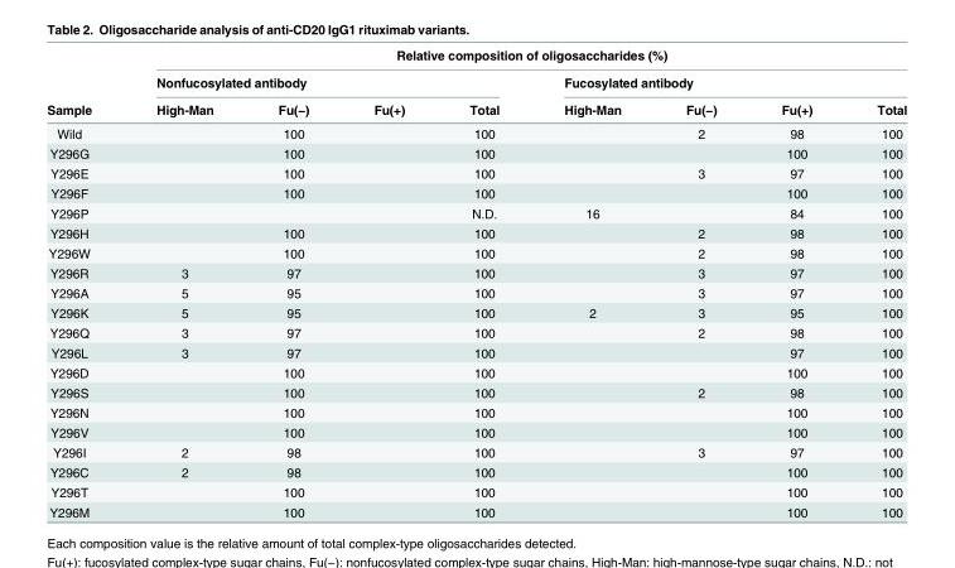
<table><thead><tr><td rowspan="3">Sample</td><td colspan="8">Relative composition of oligosaccharides (%)</td></tr><tr><td colspan="4">Nonfucosylated antibody</td><td colspan="4">Fucosylated antibody</td></tr><tr><td>High-Man</td><td>Fu(−)</td><td>Fu(+)</td><td>Total</td><td>High-Man</td><td>Fu(−)</td><td>Fu(+)</td><td>Total</td></tr></thead><tbody><tr><td>Wild</td><td></td><td>100</td><td></td><td>100</td><td></td><td>2</td><td>98</td><td>100</td></tr><tr><td>Y296G</td><td></td><td>100</td><td></td><td>100</td><td></td><td></td><td>100</td><td>100</td></tr><tr><td>Y296E</td><td></td><td>100</td><td></td><td>100</td><td></td><td>3</td><td>97</td><td>100</td></tr><tr><td>Y296F</td><td></td><td>100</td><td></td><td>100</td><td></td><td></td><td>100</td><td>100</td></tr><tr><td>Y296P</td><td></td><td></td><td></td><td>N.D.</td><td>16</td><td></td><td>84</td><td>100</td></tr><tr><td>Y296H</td><td></td><td>100</td><td></td><td>100</td><td></td><td>2</td><td>98</td><td>100</td></tr><tr><td>Y296W</td><td></td><td>100</td><td></td><td>100</td><td></td><td>2</td><td>98</td><td>100</td></tr><tr><td>Y296R</td><td>3</td><td>97</td><td></td><td>100</td><td></td><td>3</td><td>97</td><td>100</td></tr><tr><td>Y296A</td><td>5</td><td>95</td><td></td><td>100</td><td></td><td>3</td><td>97</td><td>100</td></tr><tr><td>Y296K</td><td>5</td><td>95</td><td></td><td>100</td><td>2</td><td>3</td><td>95</td><td>100</td></tr><tr><td>Y296Q</td><td>3</td><td>97</td><td></td><td>100</td><td></td><td>2</td><td>98</td><td>100</td></tr><tr><td>Y296L</td><td>3</td><td>97</td><td></td><td>100</td><td></td><td></td><td>97</td><td>100</td></tr><tr><td>Y296D</td><td></td><td>100</td><td></td><td>100</td><td></td><td></td><td>100</td><td>100</td></tr><tr><td>Y296S</td><td></td><td>100</td><td></td><td>100</td><td></td><td>2</td><td>98</td><td>100</td></tr><tr><td>Y296N</td><td></td><td>100</td><td></td><td>100</td><td></td><td></td><td>100</td><td>100</td></tr><tr><td>Y296V</td><td></td><td>100</td><td></td><td>100</td><td></td><td></td><td>100</td><td>100</td></tr><tr><td>Y296I</td><td>2</td><td>98</td><td></td><td>100</td><td></td><td>3</td><td>97</td><td>100</td></tr><tr><td>Y296C</td><td>2</td><td>98</td><td></td><td>100</td><td></td><td></td><td>100</td><td>100</td></tr><tr><td>Y296T</td><td></td><td>100</td><td></td><td>100</td><td></td><td></td><td>100</td><td>100</td></tr><tr><td>Y296M</td><td></td><td>100</td><td></td><td>100</td><td></td><td></td><td>100</td><td>100</td></tr></tbody></table>